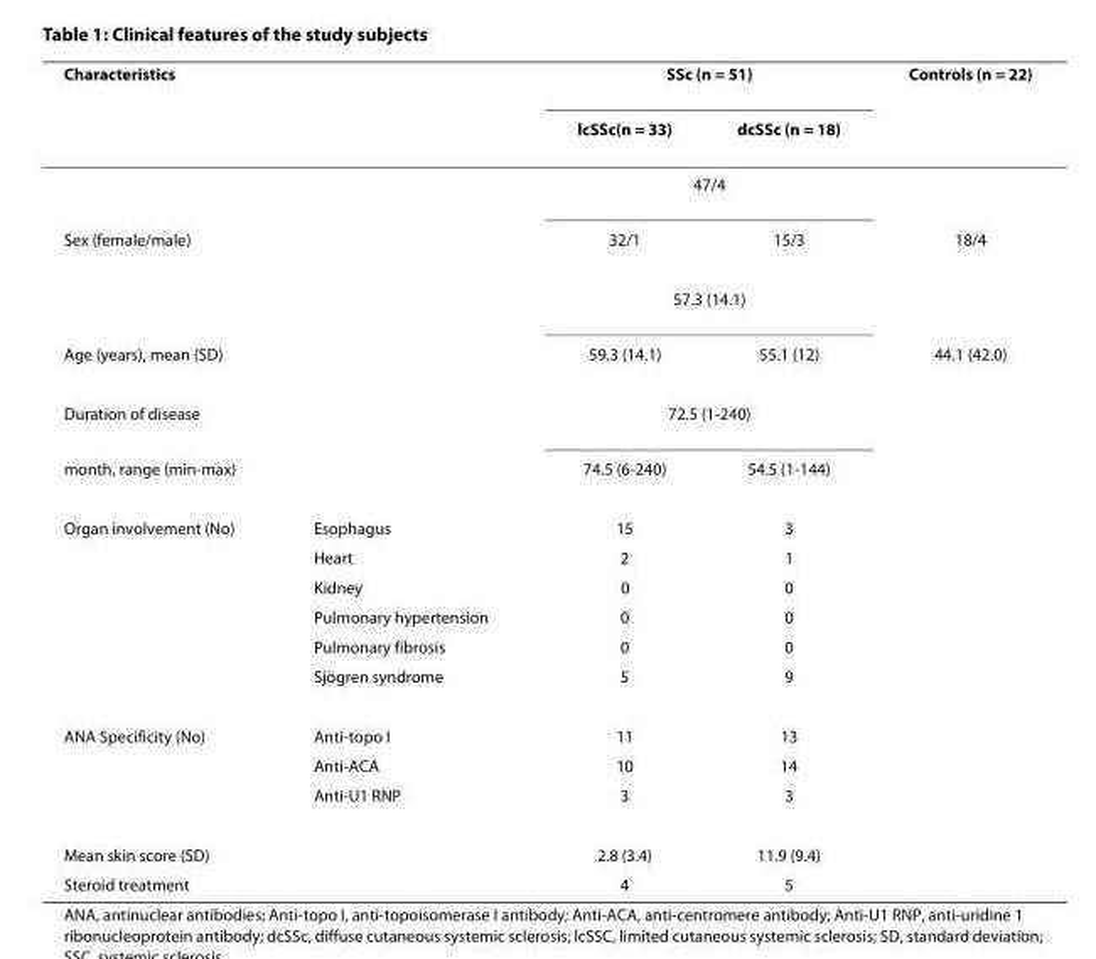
<table><thead><tr><td rowspan="2">Characteristics</td><td rowspan="2"></td><td colspan="2">SSc (n = 51)</td><td rowspan="2">Controls (n = 22)</td></tr><tr><td>lcSSc(n = 33)</td><td>dcSSc (n = 18)</td></tr></thead><tbody><tr><td></td><td></td><td colspan="2">47/4</td><td></td></tr><tr><td rowspan="2">Sex (female/male)</td><td></td><td>32/1</td><td>15/3</td><td>18/4</td></tr><tr><td></td><td colspan="2">57.3 (14.1)</td><td></td></tr><tr><td>Age (years), mean (SD)</td><td></td><td>59.3 (14.1)</td><td>55.1 (12)</td><td>44.1 (42.0)</td></tr><tr><td>Duration of disease</td><td></td><td colspan="2">72.5 (1-240)</td><td></td></tr><tr><td>month, range (min-max)</td><td></td><td>74.5 (6-240)</td><td>54.5 (1-144)</td><td></td></tr><tr><td rowspan="6">Organ involvement (No)</td><td>Esophagus</td><td>15</td><td>3</td><td></td></tr><tr><td>Heart</td><td>2</td><td>1</td><td></td></tr><tr><td>Kidney</td><td>0</td><td>0</td><td></td></tr><tr><td>Pulmonary hypertension</td><td>0</td><td>0</td><td></td></tr><tr><td>Pulmonary fibrosis</td><td>0</td><td>0</td><td></td></tr><tr><td>Sjögren syndrome</td><td>5</td><td>9</td><td></td></tr><tr><td rowspan="3">ANA Specificity (No)</td><td>Anti-topo I</td><td>11</td><td>13</td><td></td></tr><tr><td>Anti-ACA</td><td>10</td><td>14</td><td></td></tr><tr><td>Anti-U1 RNP</td><td>3</td><td>3</td><td></td></tr><tr><td>Mean skin score (SD)</td><td></td><td>2.8 (3.4)</td><td>11.9 (9.4)</td><td></td></tr><tr><td>Steroid treatment</td><td></td><td>4</td><td>5</td><td></td></tr></tbody></table>